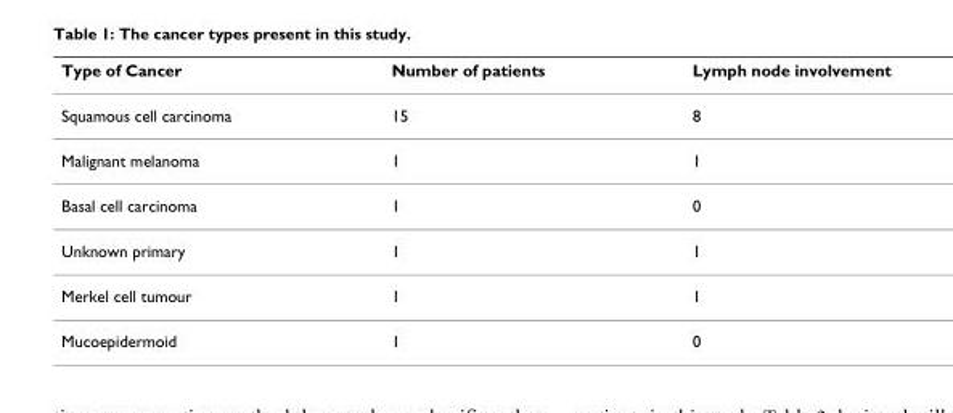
<table><thead><tr><td>Type of Cancer</td><td>Number of patients</td><td>Lymph node involvement</td></tr></thead><tbody><tr><td>Squamous cell carcinoma</td><td>15</td><td>8</td></tr><tr><td>Malignant melanoma</td><td>1</td><td>1</td></tr><tr><td>Basal cell carcinoma</td><td>1</td><td>0</td></tr><tr><td>Unknown primary</td><td>1</td><td>1</td></tr><tr><td>Merkel cell tumour</td><td>1</td><td>1</td></tr><tr><td>Mucoepidermoid</td><td>1</td><td>0</td></tr></tbody></table>